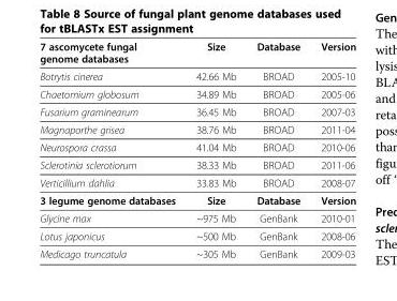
<table><thead><tr><td>7 ascomycete fungal genome databases</td><td>Size</td><td>Database</td><td>Version</td></tr></thead><tbody><tr><td>Botrytis cinerea</td><td>42.66 Mb</td><td>BROAD</td><td>2005-10</td></tr><tr><td>Chaetomium globosum</td><td>34.89 Mb</td><td>BROAD</td><td>2005-06</td></tr><tr><td>Fusarium graminearum</td><td>36.45 Mb</td><td>BROAD</td><td>2007-03</td></tr><tr><td>Magnaporthe grisea</td><td>38.76 Mb</td><td>BROAD</td><td>2011-04</td></tr><tr><td>Neurospora crassa</td><td>41.04 Mb</td><td>BROAD</td><td>2010-06</td></tr><tr><td>Sclerotinia sclerotiorum</td><td>38.33 Mb</td><td>BROAD</td><td>2011-06</td></tr><tr><td>Verticillium dahlia</td><td>33.83 Mb</td><td>BROAD</td><td>2008-07</td></tr><tr><td>3 legume genome databases</td><td>Size</td><td>Database</td><td>Version</td></tr><tr><td>Glycine max</td><td>~975 Mb</td><td>GenBank</td><td>2010-01</td></tr><tr><td>Lotus japonicus</td><td>~500 Mb</td><td>GenBank</td><td>2008-06</td></tr><tr><td>Medicago truncatula</td><td>~305 Mb</td><td>GenBank</td><td>2009-03</td></tr></tbody></table>